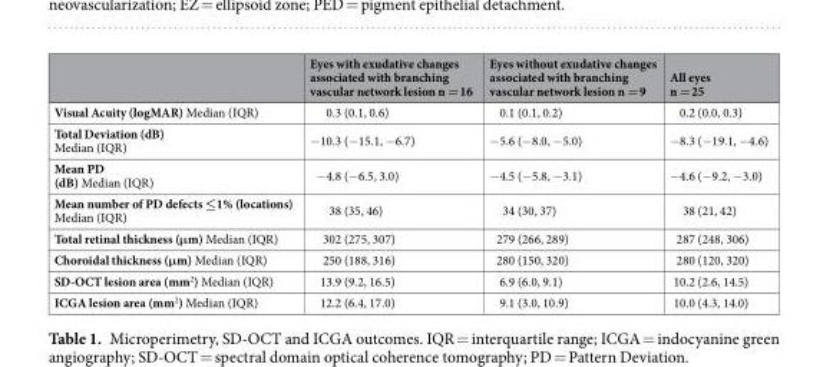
<table><thead><tr><td></td><td>Eyes with exudative changes associated with branching vascular network lesion n = 16</td><td>Eyes without exudative changes associated with branching vascular network lesion n = 9</td><td>All eyes n = 25</td></tr></thead><tbody><tr><td>Visual Acuity (logMAR) Median (IQR)</td><td>0.3 (0.1, 0.6)</td><td>0.1 (0.1, 0.2)</td><td>0.2 (0.0, 0.3)</td></tr><tr><td>Total Deviation (dB) Median (IQR)</td><td>−10.3 (−15.1, −6.7)</td><td>−5.6 (−8.0, −5.0)</td><td>−8.3 (−19.1, −4.6)</td></tr><tr><td>Mean PD (dB) Median (IQR)</td><td>−4.8 (−6.5, 3.0)</td><td>−4.5 (−5.8, −3.1)</td><td>−4.6 (−9.2, −3.0)</td></tr><tr><td>Mean number of PD defects ≤1% (locations) Median (IQR)</td><td>38 (35, 46)</td><td>34 (30, 37)</td><td>38 (21, 42)</td></tr><tr><td>Total retinal thickness (μm) Median (IQR)</td><td>302 (275, 307)</td><td>279 (266, 289)</td><td>287 (248, 306)</td></tr><tr><td>Choroidal thickness (μm) Median (IQR)</td><td>250 (188, 316)</td><td>280 (150, 320)</td><td>280 (120, 320)</td></tr><tr><td>SD-OCT lesion area (mm<sup>2</sup>) Median (IQR)</td><td>13.9 (9.2, 16.5)</td><td>6.9 (6.0, 9.1)</td><td>10.2 (2.6, 14.5)</td></tr><tr><td>ICGA lesion area (mm<sup>2</sup>) Median (IQR)</td><td>12.2 (6.4, 17.0)</td><td>9.1 (3.0, 10.9)</td><td>10.0 (4.3, 14.0)</td></tr></tbody></table>